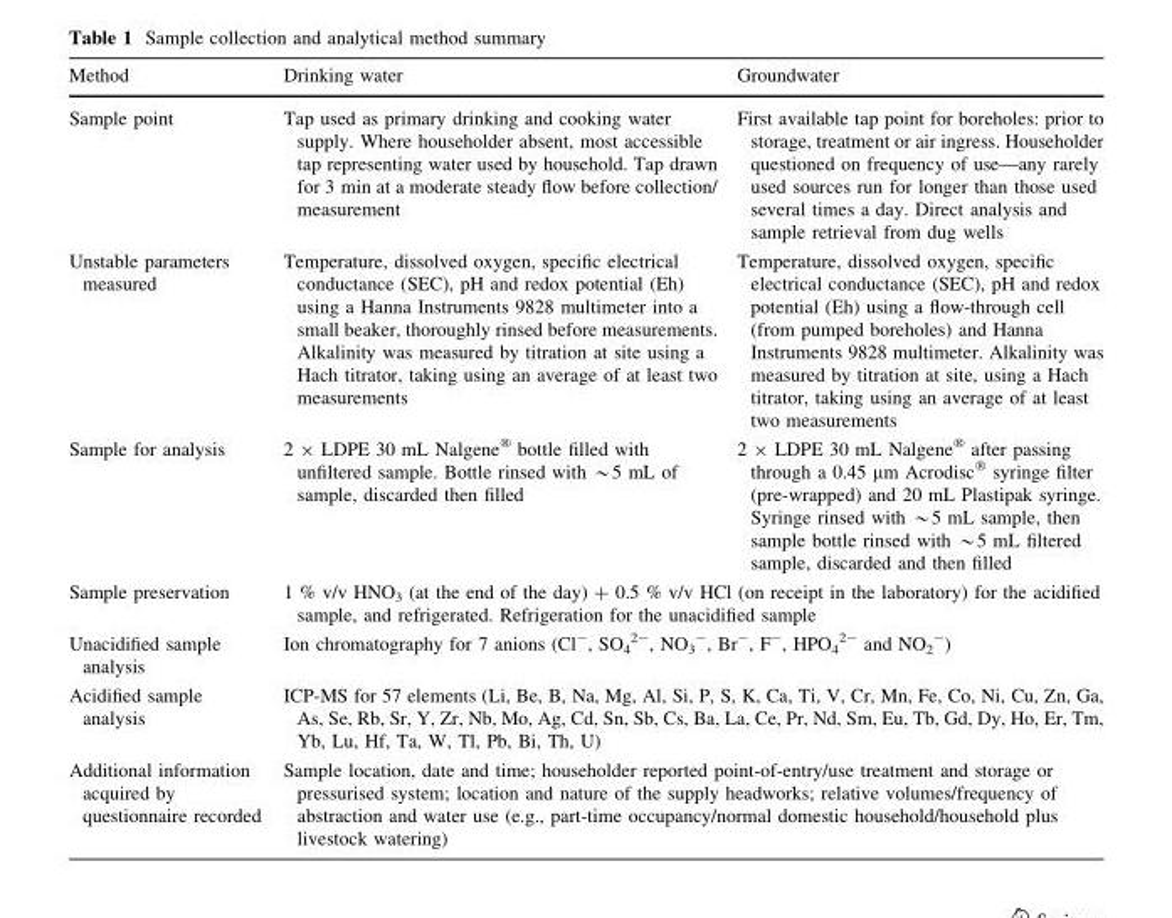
<table><thead><tr><td>Method</td><td>Drinking water</td><td>Groundwater</td></tr></thead><tbody><tr><td>Sample point</td><td>Tap used as primary drinking and cooking water supply. Where householder absent, most accessible tap representing water used by household. Tap drawn for 3 min at a moderate steady flow before collection/ measurement</td><td>First available tap point for boreholes: prior to storage, treatment or air ingress. Householder questioned on frequency of use—any rarely used sources run for longer than those used several times a day. Direct analysis and sample retrieval from dug wells</td></tr><tr><td>Unstable parameters measured</td><td>Temperature, dissolved oxygen, specific electrical conductance (SEC), pH and redox potential (Eh) using a Hanna Instruments 9828 multimeter into a small beaker, thoroughly rinsed before measurements. Alkalinity was measured by titration at site using a Hach titrator, taking using an average of at least two measurements</td><td>Temperature, dissolved oxygen, specific electrical conductance (SEC), pH and redox potential (Eh) using a flow-through cell (from pumped boreholes) and Hanna Instruments 9828 multimeter. Alkalinity was measured by titration at site, using a Hach titrator, taking using an average of at least two measurements</td></tr><tr><td>Sample for analysis</td><td>2 9 LDPE 30 mL Nalgene� bottle filled with unfiltered sample. Bottle rinsed with *5 mL of sample, discarded then filled</td><td>2 9 LDPE 30 mL Nalgene� after passing through a 0.45 lm Acrodisc� syringe filter (pre-wrapped) and 20 mL Plastipak syringe. Syringe rinsed with *5 mL sample, then sample bottle rinsed with *5 mL filtered sample, discarded and then filled</td></tr><tr><td>Sample preservation</td><td colspan="2">1 % v/v HNO<sub>3</sub> (at the end of the day) + 0.5 % v/v HCl (on receipt in the laboratory) for the acidified sample, and refrigerated. Refrigeration for the unacidified sample</td></tr><tr><td>Unacidified sample analysis</td><td colspan="2">Ion chromatography for 7 anions (Cl<sup>-</sup>, SO<sub>4</sub> <sup>2-</sup>, NO<sub>3</sub> <sup>-</sup>, Br<sup>-</sup>, F<sup>-</sup>, HPO<sub>4</sub> <sup>2-</sup> and NO<sub>2</sub> <sup>-</sup>)</td></tr><tr><td>Acidified sample analysis</td><td colspan="2">ICP-MS for 57 elements (Li, Be, B, Na, Mg, Al, Si, P, S, K, Ca, Ti, V, Cr, Mn, Fe, Co, Ni, Cu, Zn, Ga, As, Se, Rb, Sr, Y, Zr, Nb, Mo, Ag, Cd, Sn, Sb, Cs, Ba, La, Ce, Pr, Nd, Sm, Eu, Tb, Gd, Dy, Ho, Er, Tm, Yb, Lu, Hf, Ta, W, Tl, Pb, Bi, Th, U)</td></tr><tr><td>Additional information acquired by questionnaire recorded</td><td colspan="2">Sample location, date and time; householder reported point-of-entry/use treatment and storage or pressurised system; location and nature of the supply headworks; relative volumes/frequency of abstraction and water use (e.g., part-time occupancy/normal domestic household/household plus livestock watering)</td></tr></tbody></table>